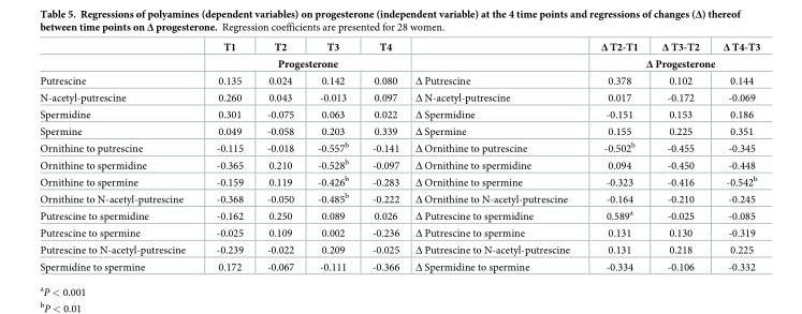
<table><thead><tr><td rowspan="2"></td><td>T1</td><td>T2</td><td>T3</td><td>T4</td><td rowspan="2"></td><td>Δ T2-T1</td><td>Δ T3-T2</td><td>Δ T4-T3</td></tr><tr><td colspan="4">Progesterone</td><td colspan="3">Δ Progesterone</td></tr></thead><tbody><tr><td>Putrescine</td><td>0.135</td><td>0.024</td><td>0.142</td><td>0.080</td><td>Δ Putrescine</td><td>0.378</td><td>0.102</td><td>0.144</td></tr><tr><td>N-acetyl-putrescine</td><td>0.260</td><td>0.043</td><td>-0.013</td><td>0.097</td><td>Δ N-acetyl-putrescine</td><td>0.017</td><td>-0.172</td><td>-0.069</td></tr><tr><td>Spermidine</td><td>0.301</td><td>-0.075</td><td>0.063</td><td>0.022</td><td>Δ Spermidine</td><td>-0.151</td><td>0.153</td><td>0.186</td></tr><tr><td>Spermine</td><td>0.049</td><td>-0.058</td><td>0.203</td><td>0.339</td><td>Δ Spermine</td><td>0.155</td><td>0.225</td><td>0.351</td></tr><tr><td>Ornithine to putrescine</td><td>-0.115</td><td>-0.018</td><td>-0.557<sup>b</sup></td><td>-0.141</td><td>Δ Ornithine to putrescine</td><td>-0.502<sup>b</sup></td><td>-0.455</td><td>-0.345</td></tr><tr><td>Ornithine to spermidine</td><td>-0.365</td><td>0.210</td><td>-0.528<sup>b</sup></td><td>-0.097</td><td>Δ Ornithine to spermidine</td><td>0.094</td><td>-0.450</td><td>-0.448</td></tr><tr><td>Ornithine to spermine</td><td>-0.159</td><td>0.119</td><td>-0.426<sup>b</sup></td><td>-0.283</td><td>Δ Ornithine to spermine</td><td>-0.323</td><td>-0.416</td><td>-0.542<sup>b</sup></td></tr><tr><td>Ornithine to N-acetyl-putrescine</td><td>-0.368</td><td>-0.050</td><td>-0.485<sup>b</sup></td><td>-0.222</td><td>Δ Ornithine to N-acetyl-putrescine</td><td>-0.164</td><td>-0.210</td><td>-0.245</td></tr><tr><td>Putrescine to spermidine</td><td>-0.162</td><td>0.250</td><td>0.089</td><td>0.026</td><td>Δ Putrescine to spermidine</td><td>0.589<sup>a</sup></td><td>-0.025</td><td>-0.085</td></tr><tr><td>Putrescine to spermine</td><td>-0.025</td><td>0.109</td><td>0.002</td><td>-0.236</td><td>Δ Putrescine to spermine</td><td>0.131</td><td>0.130</td><td>-0.319</td></tr><tr><td>Putrescine to N-acetyl-putrescine</td><td>-0.239</td><td>-0.022</td><td>0.209</td><td>-0.025</td><td>Δ Putrescine to N-acetyl-putrescine</td><td>0.131</td><td>0.218</td><td>0.225</td></tr><tr><td>Spermidine to spermine</td><td>0.172</td><td>-0.067</td><td>-0.111</td><td>-0.366</td><td>Δ Spermidine to spermine</td><td>-0.334</td><td>-0.106</td><td>-0.332</td></tr></tbody></table>